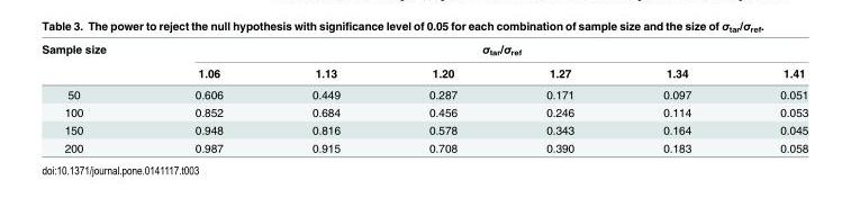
<table><thead><tr><td rowspan="2">Sample size</td><td colspan="6">σ<sub>tar</sub>/σ<sub>ref</sub></td></tr><tr><td>1.06</td><td>1.13</td><td>1.20</td><td>1.27</td><td>1.34</td><td>1.41</td></tr></thead><tbody><tr><td>50</td><td>0.606</td><td>0.449</td><td>0.287</td><td>0.171</td><td>0.097</td><td>0.051</td></tr><tr><td>100</td><td>0.852</td><td>0.684</td><td>0.456</td><td>0.246</td><td>0.114</td><td>0.053</td></tr><tr><td>150</td><td>0.948</td><td>0.816</td><td>0.578</td><td>0.343</td><td>0.164</td><td>0.045</td></tr><tr><td>200</td><td>0.987</td><td>0.915</td><td>0.708</td><td>0.390</td><td>0.183</td><td>0.058</td></tr></tbody></table>